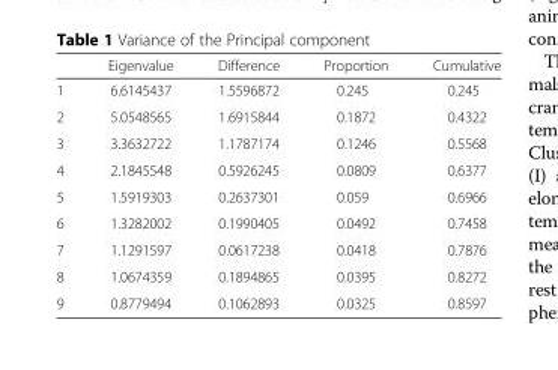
<table><thead><tr><td></td><td>Eigenvalue</td><td>Difference</td><td>Proportion</td><td>Cumulative</td></tr></thead><tbody><tr><td>1</td><td>6.6145437</td><td>1.5596872</td><td>0.245</td><td>0.245</td></tr><tr><td>2</td><td>5.0548565</td><td>1.6915844</td><td>0.1872</td><td>0.4322</td></tr><tr><td>3</td><td>3.3632722</td><td>1.1787174</td><td>0.1246</td><td>0.5568</td></tr><tr><td>4</td><td>2.1845548</td><td>0.5926245</td><td>0.0809</td><td>0.6377</td></tr><tr><td>5</td><td>1.5919303</td><td>0.2637301</td><td>0.059</td><td>0.6966</td></tr><tr><td>6</td><td>1.3282002</td><td>0.1990405</td><td>0.0492</td><td>0.7458</td></tr><tr><td>7</td><td>1.1291597</td><td>0.0617238</td><td>0.0418</td><td>0.7876</td></tr><tr><td>8</td><td>1.0674359</td><td>0.1894865</td><td>0.0395</td><td>0.8272</td></tr><tr><td>9</td><td>0.8779494</td><td>0.1062893</td><td>0.0325</td><td>0.8597</td></tr></tbody></table>